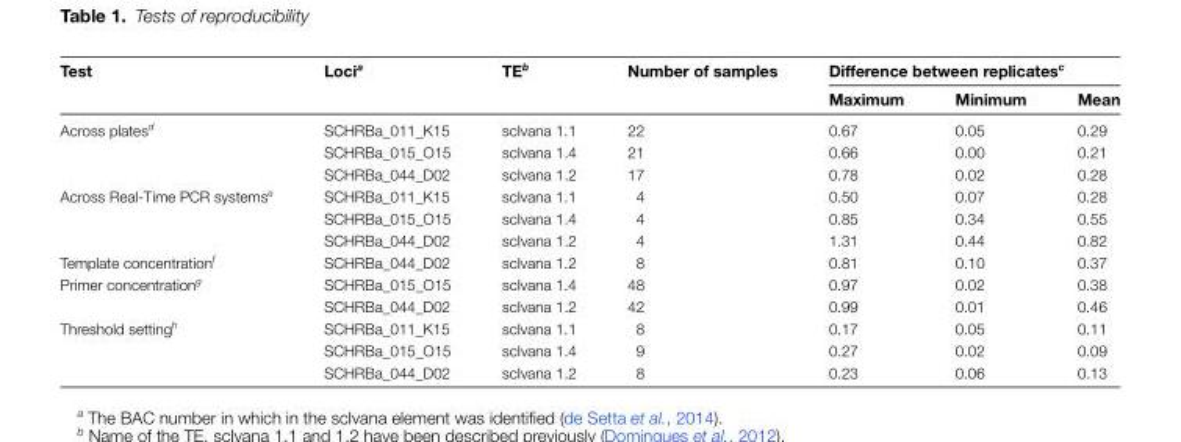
<table><thead><tr><td rowspan="2">Test</td><td rowspan="2">Loci<sup>a</sup></td><td rowspan="2">TE<sup>b</sup></td><td rowspan="2">Number of samples</td><td colspan="3">Difference between replicates<sup>c</sup></td></tr><tr><td>Maximum</td><td>Minimum</td><td>Mean</td></tr></thead><tbody><tr><td rowspan="3">Across plates<sup>d</sup></td><td>SCHRBa_011_K15</td><td>scIvana 1.1</td><td>22</td><td>0.67</td><td>0.05</td><td>0.29</td></tr><tr><td>SCHRBa_015_O15</td><td>scIvana 1.4</td><td>21</td><td>0.66</td><td>0.00</td><td>0.21</td></tr><tr><td>SCHRBa_044_D02</td><td>scIvana 1.2</td><td>17</td><td>0.78</td><td>0.02</td><td>0.28</td></tr><tr><td rowspan="3">Across Real-Time PCR systems<sup>e</sup></td><td>SCHRBa_011_K15</td><td>scIvana 1.1</td><td>4</td><td>0.50</td><td>0.07</td><td>0.28</td></tr><tr><td>SCHRBa_015_O15</td><td>scIvana 1.4</td><td>4</td><td>0.85</td><td>0.34</td><td>0.55</td></tr><tr><td>SCHRBa_044_D02</td><td>scIvana 1.2</td><td>4</td><td>1.31</td><td>0.44</td><td>0.82</td></tr><tr><td>Template concentration<sup>f</sup></td><td>SCHRBa_044_D02</td><td>scIvana 1.2</td><td>8</td><td>0.81</td><td>0.10</td><td>0.37</td></tr><tr><td rowspan="2">Primer concentration<sup>g</sup></td><td>SCHRBa_015_O15</td><td>scIvana 1.4</td><td>48</td><td>0.97</td><td>0.02</td><td>0.38</td></tr><tr><td>SCHRBa_044_D02</td><td>scIvana 1.2</td><td>42</td><td>0.99</td><td>0.01</td><td>0.46</td></tr><tr><td rowspan="3">Threshold setting<sup>h</sup></td><td>SCHRBa_011_K15</td><td>scIvana 1.1</td><td>8</td><td>0.17</td><td>0.05</td><td>0.11</td></tr><tr><td>SCHRBa_015_O15</td><td>scIvana 1.4</td><td>9</td><td>0.27</td><td>0.02</td><td>0.09</td></tr><tr><td>SCHRBa_044_D02</td><td>scIvana 1.2</td><td>8</td><td>0.23</td><td>0.06</td><td>0.13</td></tr></tbody></table>